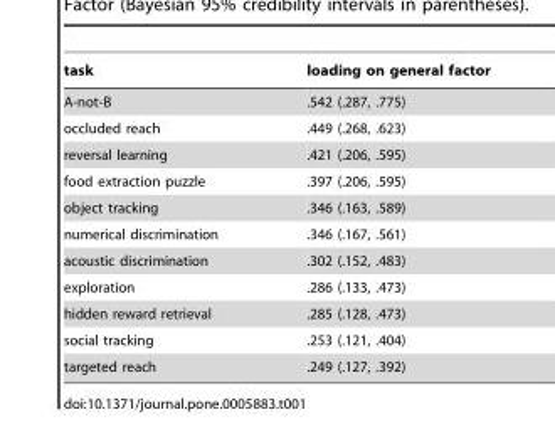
<table><thead><tr><td>task</td><td>loading on general factor</td></tr></thead><tbody><tr><td>A-not-B</td><td>.542 (.287, .775)</td></tr><tr><td>occluded reach</td><td>.449 (.268, .623)</td></tr><tr><td>reversal learning</td><td>.421 (.206, .595)</td></tr><tr><td>food extraction puzzle</td><td>.397 (.206, .595)</td></tr><tr><td>object tracking</td><td>.346 (.163, .589)</td></tr><tr><td>numerical discrimination</td><td>.346 (.167, .561)</td></tr><tr><td>acoustic discrimination</td><td>.302 (.152, .483)</td></tr><tr><td>exploration</td><td>.286 (.133, .473)</td></tr><tr><td>hidden reward retrieval</td><td>.285 (.128, .473)</td></tr><tr><td>social tracking</td><td>.253 (.121, .404)</td></tr><tr><td>targeted reach</td><td>.249 (.127, .392)</td></tr></tbody></table>